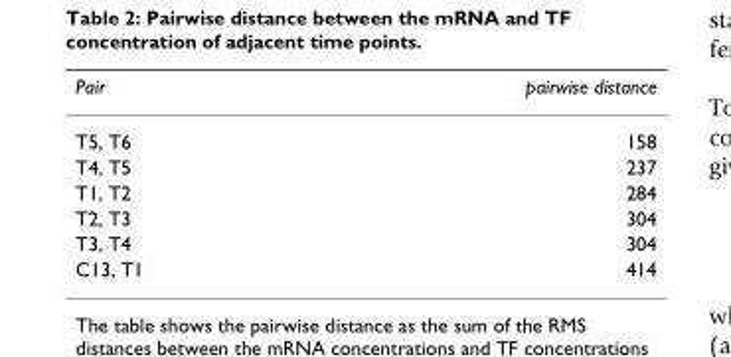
<table><thead><tr><td>Pair</td><td>pairwise distance</td></tr></thead><tbody><tr><td>T5, T6</td><td>158</td></tr><tr><td>T4, T5</td><td>237</td></tr><tr><td>T1, T2</td><td>284</td></tr><tr><td>T2, T3</td><td>304</td></tr><tr><td>T3, T4</td><td>304</td></tr><tr><td>C13, T1</td><td>414</td></tr></tbody></table>